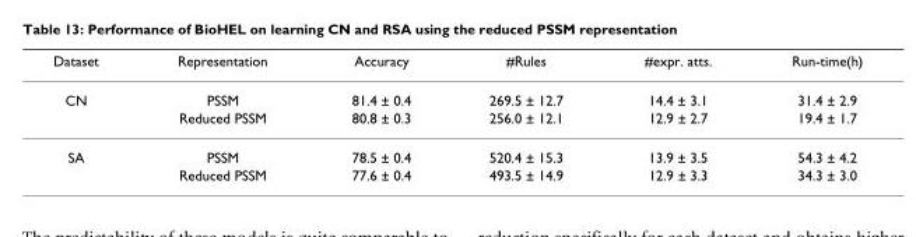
<table><thead><tr><td>Dataset</td><td>Representation</td><td>Accuracy</td><td>#Rules</td><td>#expr. atts.</td><td>Run-time(h)</td></tr></thead><tbody><tr><td rowspan="2">CN</td><td>PSSM</td><td>81.4 ± 0.4</td><td>269.5 ± 12.7</td><td>14.4 ± 3.1</td><td>31.4 ± 2.9</td></tr><tr><td>Reduced PSSM</td><td>80.8 ± 0.3</td><td>256.0 ± 12.1</td><td>12.9 ± 2.7</td><td>19.4 ± 1.7</td></tr><tr><td rowspan="2">SA</td><td>PSSM</td><td>78.5 ± 0.4</td><td>520.4 ± 15.3</td><td>13.9 ± 3.5</td><td>54.3 ± 4.2</td></tr><tr><td>Reduced PSSM</td><td>77.6 ± 0.4</td><td>493.5 ± 14.9</td><td>12.9 ± 3.3</td><td>34.3 ± 3.0</td></tr></tbody></table>